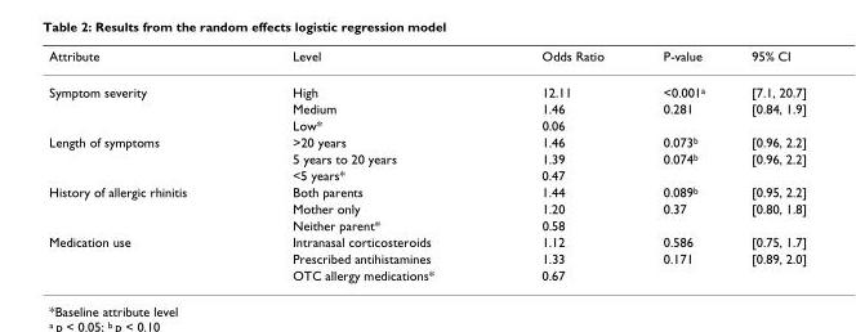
<table><thead><tr><td>Attribute</td><td>Level</td><td>Odds Ratio</td><td>P-value</td><td>95% CI</td></tr></thead><tbody><tr><td rowspan="3">Symptom severity</td><td>High</td><td>12.11</td><td>&lt;0.001<sup>a</sup></td><td>[7.1, 20.7]</td></tr><tr><td>Medium</td><td>1.46</td><td>0.281</td><td>[0.84, 1.9]</td></tr><tr><td>Low*</td><td>0.06</td><td></td><td></td></tr><tr><td rowspan="3">Length of symptoms</td><td>&gt;20 years</td><td>1.46</td><td>0.073<sup>b</sup></td><td>[0.96, 2.2]</td></tr><tr><td>5 years to 20 years</td><td>1.39</td><td>0.074<sup>b</sup></td><td>[0.96, 2.2]</td></tr><tr><td>&lt;5 years*</td><td>0.47</td><td></td><td></td></tr><tr><td rowspan="3">History of allergic rhinitis</td><td>Both parents</td><td>1.44</td><td>0.089<sup>b</sup></td><td>[0.95, 2.2]</td></tr><tr><td>Mother only</td><td>1.20</td><td>0.37</td><td>[0.80, 1.8]</td></tr><tr><td>Neither parent*</td><td>0.58</td><td></td><td></td></tr><tr><td rowspan="3">Medication use</td><td>Intranasal corticosteroids</td><td>1.12</td><td>0.586</td><td>[0.75, 1.7]</td></tr><tr><td>Prescribed antihistamines</td><td>1.33</td><td>0.171</td><td>[0.89, 2.0]</td></tr><tr><td>OTC allergy medications*</td><td>0.67</td><td></td><td></td></tr></tbody></table>